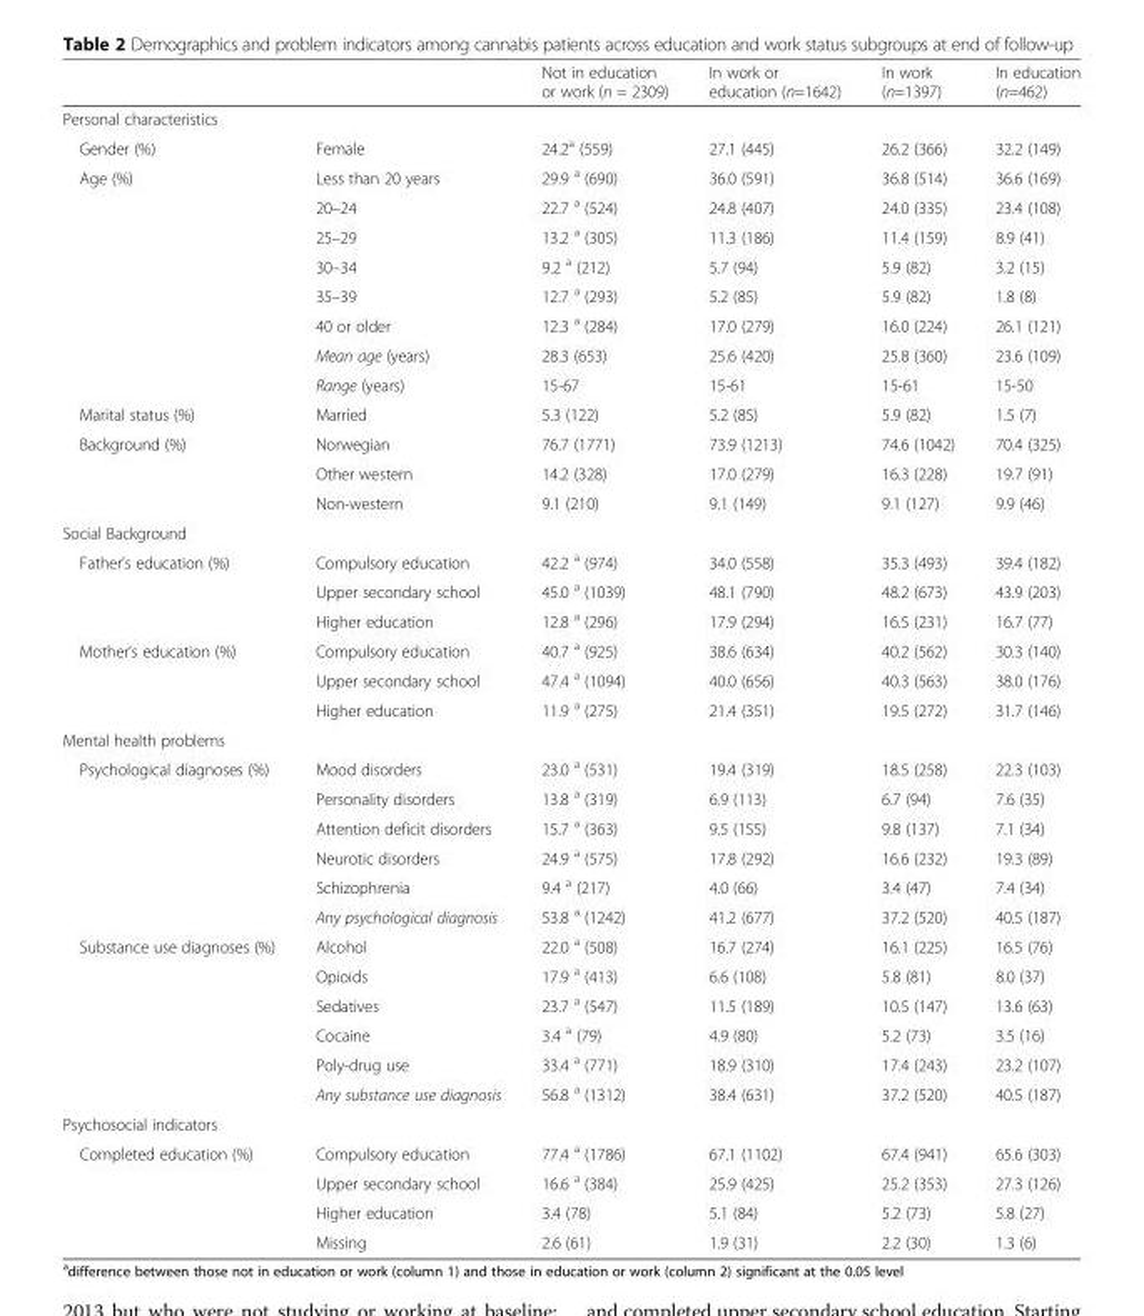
<table><thead><tr><td></td><td></td><td>Not in education or work (n = 2309)</td><td>In work or education (n=1642)</td><td>In work (n=1397)</td><td>In education (n=462)</td></tr></thead><tbody><tr><td colspan="6">Personal characteristics</td></tr><tr><td>Gender (%)</td><td>Female</td><td>24.2<sup>a</sup> (559)</td><td>27.1 (445)</td><td>26.2 (366)</td><td>32.2 (149)</td></tr><tr><td rowspan="8">Age (%)</td><td>Less than 20 years</td><td>29.9 <sup>a</sup> (690)</td><td>36.0 (591)</td><td>36.8 (514)</td><td>36.6 (169)</td></tr><tr><td>20–24</td><td>22.7 <sup>a</sup> (524)</td><td>24.8 (407)</td><td>24.0 (335)</td><td>23.4 (108)</td></tr><tr><td>25–29</td><td>13.2 <sup>a</sup> (305)</td><td>11.3 (186)</td><td>11.4 (159)</td><td>8.9 (41)</td></tr><tr><td>30–34</td><td>9.2 <sup>a</sup> (212)</td><td>5.7 (94)</td><td>5.9 (82)</td><td>3.2 (15)</td></tr><tr><td>35–39</td><td>12.7 <sup>a</sup> (293)</td><td>5.2 (85)</td><td>5.9 (82)</td><td>1.8 (8)</td></tr><tr><td>40 or older</td><td>12.3 <sup>a</sup> (284)</td><td>17.0 (279)</td><td>16.0 (224)</td><td>26.1 (121)</td></tr><tr><td>Mean age (years)</td><td>28.3 (653)</td><td>25.6 (420)</td><td>25.8 (360)</td><td>23.6 (109)</td></tr><tr><td>Range (years)</td><td>15-67</td><td>15-61</td><td>15-61</td><td>15-50</td></tr><tr><td>Marital status (%)</td><td>Married</td><td>5.3 (122)</td><td>5.2 (85)</td><td>5.9 (82)</td><td>1.5 (7)</td></tr><tr><td rowspan="3">Background (%)</td><td>Norwegian</td><td>76.7 (1771)</td><td>73.9 (1213)</td><td>74.6 (1042)</td><td>70.4 (325)</td></tr><tr><td>Other western</td><td>14.2 (328)</td><td>17.0 (279)</td><td>16.3 (228)</td><td>19.7 (91)</td></tr><tr><td>Non-western</td><td>9.1 (210)</td><td>9.1 (149)</td><td>9.1 (127)</td><td>9.9 (46)</td></tr><tr><td colspan="6">Social Background</td></tr><tr><td rowspan="3">Father’s education (%)</td><td>Compulsory education</td><td>42.2 <sup>a</sup> (974)</td><td>34.0 (558)</td><td>35.3 (493)</td><td>39.4 (182)</td></tr><tr><td>Upper secondary school</td><td>45.0 <sup>a</sup> (1039)</td><td>48.1 (790)</td><td>48.2 (673)</td><td>43.9 (203)</td></tr><tr><td>Higher education</td><td>12.8 <sup>a</sup> (296)</td><td>17.9 (294)</td><td>16.5 (231)</td><td>16.7 (77)</td></tr><tr><td rowspan="3">Mother’s education (%)</td><td>Compulsory education</td><td>40.7 <sup>a</sup> (925)</td><td>38.6 (634)</td><td>40.2 (562)</td><td>30.3 (140)</td></tr><tr><td>Upper secondary school</td><td>47.4 <sup>a</sup> (1094)</td><td>40.0 (656)</td><td>40.3 (563)</td><td>38.0 (176)</td></tr><tr><td>Higher education</td><td>11.9 <sup>a</sup> (275)</td><td>21.4 (351)</td><td>19.5 (272)</td><td>31.7 (146)</td></tr><tr><td colspan="6">Mental health problems</td></tr><tr><td rowspan="6">Psychological diagnoses (%)</td><td>Mood disorders</td><td>23.0 <sup>a</sup> (531)</td><td>19.4 (319)</td><td>18.5 (258)</td><td>22.3 (103)</td></tr><tr><td>Personality disorders</td><td>13.8 <sup>a</sup> (319)</td><td>6.9 (113)</td><td>6.7 (94)</td><td>7.6 (35)</td></tr><tr><td>Attention deficit disorders</td><td>15.7 <sup>a</sup> (363)</td><td>9.5 (155)</td><td>9.8 (137)</td><td>7.1 (34)</td></tr><tr><td>Neurotic disorders</td><td>24.9 <sup>a</sup> (575)</td><td>17.8 (292)</td><td>16.6 (232)</td><td>19.3 (89)</td></tr><tr><td>Schizophrenia</td><td>9.4 <sup>a</sup> (217)</td><td>4.0 (66)</td><td>3.4 (47)</td><td>7.4 (34)</td></tr><tr><td>Any psychological diagnosis</td><td>53.8 <sup>a</sup> (1242)</td><td>41.2 (677)</td><td>37.2 (520)</td><td>40.5 (187)</td></tr><tr><td rowspan="6">Substance use diagnoses (%)</td><td>Alcohol</td><td>22.0 <sup>a</sup> (508)</td><td>16.7 (274)</td><td>16.1 (225)</td><td>16.5 (76)</td></tr><tr><td>Opioids</td><td>17.9 <sup>a</sup> (413)</td><td>6.6 (108)</td><td>5.8 (81)</td><td>8.0 (37)</td></tr><tr><td>Sedatives</td><td>23.7 <sup>a</sup> (547)</td><td>11.5 (189)</td><td>10.5 (147)</td><td>13.6 (63)</td></tr><tr><td>Cocaine</td><td>3.4 <sup>a</sup> (79)</td><td>4.9 (80)</td><td>5.2 (73)</td><td>3.5 (16)</td></tr><tr><td>Poly-drug use</td><td>33.4 <sup>a</sup> (771)</td><td>18.9 (310)</td><td>17.4 (243)</td><td>23.2 (107)</td></tr><tr><td>Any substance use diagnosis</td><td>56.8 <sup>a</sup> (1312)</td><td>38.4 (631)</td><td>37.2 (520)</td><td>40.5 (187)</td></tr><tr><td colspan="6">Psychosocial indicators</td></tr><tr><td rowspan="4">Completed education (%)</td><td>Compulsory education</td><td>77.4 <sup>a</sup> (1786)</td><td>67.1 (1102)</td><td>67.4 (941)</td><td>65.6 (303)</td></tr><tr><td>Upper secondary school</td><td>16.6 <sup>a</sup> (384)</td><td>25.9 (425)</td><td>25.2 (353)</td><td>27.3 (126)</td></tr><tr><td>Higher education</td><td>3.4 (78)</td><td>5.1 (84)</td><td>5.2 (73)</td><td>5.8 (27)</td></tr><tr><td>Missing</td><td>2.6 (61)</td><td>1.9 (31)</td><td>2.2 (30)</td><td>1.3 (6)</td></tr></tbody></table>